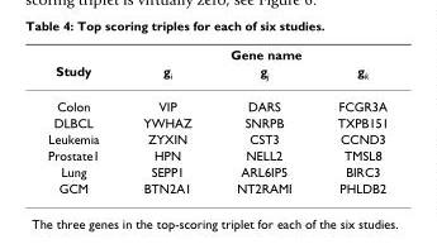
<table><thead><tr><td rowspan="2">Study</td><td colspan="3">Gene name</td></tr><tr><td>g<sub>i</sub></td><td>g<sub>j</sub></td><td>g<sub>k</sub></td></tr></thead><tbody><tr><td>Colon</td><td>VIP</td><td>DARS</td><td>FCGR3A</td></tr><tr><td>DLBCL</td><td>YWHAZ</td><td>SNRPB</td><td>TXPB151</td></tr><tr><td>Leukemia</td><td>ZYXIN</td><td>CST3</td><td>CCND3</td></tr><tr><td>Prostate1</td><td>HPN</td><td>NELL2</td><td>TMSL8</td></tr><tr><td>Lung</td><td>SEPP1</td><td>ARL6IP5</td><td>BIRC3</td></tr><tr><td>GCM</td><td>BTN2A1</td><td>NT2RAMI</td><td>PHLDB2</td></tr></tbody></table>